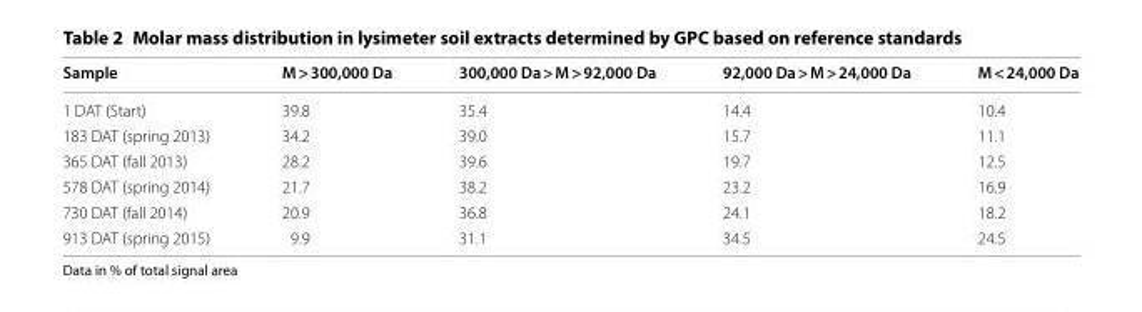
<table><thead><tr><td>Sample</td><td>M &gt; 300,000 Da</td><td>300,000 Da &gt; M &gt; 92,000 Da</td><td>92,000 Da &gt; M &gt; 24,000 Da</td><td>M &lt; 24,000 Da</td></tr></thead><tbody><tr><td>1 DAT (Start)</td><td>39.8</td><td>35.4</td><td>14.4</td><td>10.4</td></tr><tr><td>183 DAT (spring 2013)</td><td>34.2</td><td>39.0</td><td>15.7</td><td>11.1</td></tr><tr><td>365 DAT (fall 2013)</td><td>28.2</td><td>39.6</td><td>19.7</td><td>12.5</td></tr><tr><td>578 DAT (spring 2014)</td><td>21.7</td><td>38.2</td><td>23.2</td><td>16.9</td></tr><tr><td>730 DAT (fall 2014)</td><td>20.9</td><td>36.8</td><td>24.1</td><td>18.2</td></tr><tr><td>913 DAT (spring 2015)</td><td>9.9</td><td>31.1</td><td>34.5</td><td>24.5</td></tr></tbody></table>